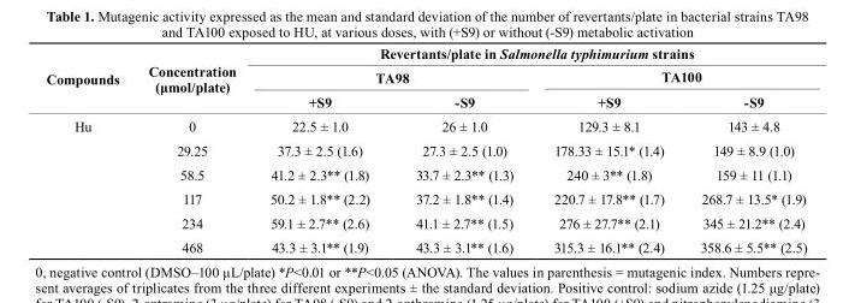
<table><thead><tr><td rowspan="3">compounds</td><td rowspan="3">concentration (μmol/plate)</td><td colspan="4">Revertants/plate in Salmonella typhimurium strains</td></tr><tr><td colspan="2">tA98</td><td colspan="2">tA100</td></tr><tr><td>+s9</td><td>-s9</td><td>+s9</td><td>-s9</td></tr></thead><tbody><tr><td rowspan="6">Hu</td><td>0</td><td>22.5 ± 1.0</td><td>26 ± 1.0</td><td>129.3 ± 8.1</td><td>143 ± 4.8</td></tr><tr><td>29.25</td><td>37.3 ± 2.5 (1.6)</td><td>27.3 ± 2.5 (1.0)</td><td>178.33 ± 15.1* (1.4)</td><td>149 ± 8.9 (1.0)</td></tr><tr><td>58.5</td><td>41.2 ± 2.3** (1.8)</td><td>33.7 ± 2.3** (1.3)</td><td>240 ± 3** (1.8)</td><td>159 ± 11 (1.1)</td></tr><tr><td>117</td><td>50.2 ± 1.8** (2.2)</td><td>37.2 ± 1.8** (1.4)</td><td>220.7 ± 17.8** (1.7)</td><td>268.7 ± 13.5* (1.9)</td></tr><tr><td>234</td><td>59.1 ± 2.7** (2.6)</td><td>41.1 ± 2.7** (1.5)</td><td>276 ± 27.7** (2.1)</td><td>345 ± 21.2** (2.4)</td></tr><tr><td>468</td><td>43.3 ± 3.1** (1.9)</td><td>43.3 ± 3.1** (1.6)</td><td>315.3 ± 16.1** (2.4)</td><td>358.6 ± 5.5** (2.5)</td></tr></tbody></table>